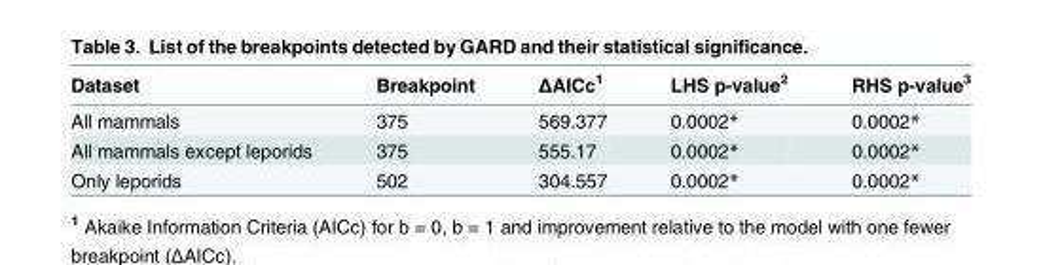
<table><thead><tr><td>Dataset</td><td>Breakpoint</td><td>ΔAICc<sup>1</sup></td><td>LHS p-value<sup>2</sup></td><td>RHS p-value<sup>3</sup></td></tr></thead><tbody><tr><td>All mammals</td><td>375</td><td>569.377</td><td>0.0002*</td><td>0.0002*</td></tr><tr><td>All mammals except leporids</td><td>375</td><td>555.17</td><td>0.0002*</td><td>0.0002*</td></tr><tr><td>Only leporids</td><td>502</td><td>304.557</td><td>0.0002*</td><td>0.0002*</td></tr></tbody></table>